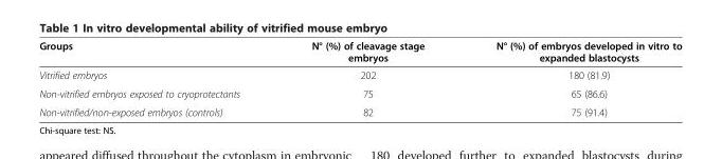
<table><thead><tr><td>Groups</td><td>N° (%) of cleavage stage embryos</td><td>N° (%) of embryos developed in vitro to expanded blastocysts</td></tr></thead><tbody><tr><td>Vitrified embryos</td><td>202</td><td>180 (81.9)</td></tr><tr><td>Non-vitrified embryos exposed to cryoprotectants</td><td>75</td><td>65 (86.6)</td></tr><tr><td>Non-vitrified/non-exposed embryos (controls)</td><td>82</td><td>75 (91.4)</td></tr></tbody></table>